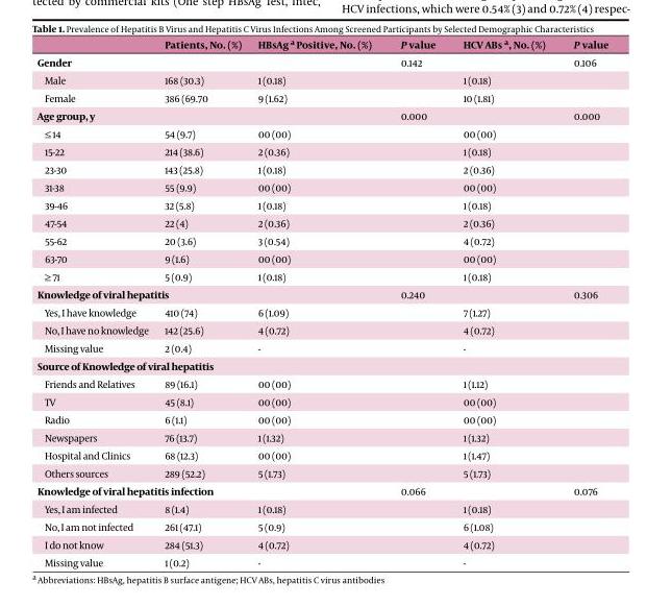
<table><thead><tr><td></td><td>Patients, No. (%)</td><td>HBsAg a Positive, No. (%)</td><td>P value</td><td>HCV ABs a, No. (%)</td><td>P value</td></tr></thead><tbody><tr><td>Gender</td><td></td><td></td><td>0.142</td><td></td><td>0.106</td></tr><tr><td>Male</td><td>168 (30.3)</td><td colspan="2">1 (0.18)</td><td colspan="2">1 (0.18)</td></tr><tr><td>Female</td><td>386 (69.70</td><td colspan="2">9 (1.62)</td><td colspan="2">10 (1.81)</td></tr><tr><td>Age group, y</td><td></td><td></td><td>0.000</td><td></td><td>0.000</td></tr><tr><td>≤ 14</td><td>54 (9.7)</td><td colspan="2">00 (00)</td><td colspan="2">00 (00)</td></tr><tr><td>15-22</td><td>214 (38.6)</td><td colspan="2">2 (0.36)</td><td colspan="2">1 (0.18)</td></tr><tr><td>23-30</td><td>143 (25.8)</td><td colspan="2">1 (0.18)</td><td colspan="2">2 (0.36)</td></tr><tr><td>31-38</td><td>55 (9.9)</td><td colspan="2">00 (00)</td><td colspan="2">00 (00)</td></tr><tr><td>39-46</td><td>32 (5.8)</td><td colspan="2">1 (0.18)</td><td colspan="2">1 (0.18)</td></tr><tr><td>47-54</td><td>22 (4)</td><td colspan="2">2 (0.36)</td><td colspan="2">2 (0.36)</td></tr><tr><td>55-62</td><td>20 (3.6)</td><td colspan="2">3 (0.54)</td><td colspan="2">4 (0.72)</td></tr><tr><td>63-70</td><td>9 (1.6)</td><td colspan="2">00 (00)</td><td colspan="2">00 (00)</td></tr><tr><td>≥ 71</td><td>5 (0.9)</td><td>1 (0.18)</td><td></td><td>1 (0.18)</td><td></td></tr><tr><td colspan="3">Knowledge of viral hepatitis</td><td>0.240</td><td></td><td>0.306</td></tr><tr><td>Yes, I have knowledge</td><td>410 (74)</td><td colspan="2">6 (1.09)</td><td colspan="2">7 (1.27)</td></tr><tr><td>No, I have no knowledge</td><td>142 (25.6)</td><td colspan="2">4 (0.72)</td><td colspan="2">4 (0.72)</td></tr><tr><td>Missing value</td><td>2 (0.4)</td><td colspan="2">-</td><td colspan="2">-</td></tr><tr><td colspan="6">Source of Knowledge of viral hepatitis</td></tr><tr><td>Friends and Relatives</td><td>89 (16.1)</td><td colspan="2">00 (00)</td><td colspan="2">1 (1.12)</td></tr><tr><td>TV</td><td>45 (8.1)</td><td colspan="2">00 (00)</td><td colspan="2">00 (00)</td></tr><tr><td>Radio</td><td>6 (1.1)</td><td colspan="2">00 (00)</td><td colspan="2">00 (00)</td></tr><tr><td>Newspapers</td><td>76 (13.7)</td><td colspan="2">1 (1.32)</td><td colspan="2">1 (1.32)</td></tr><tr><td>Hospital and Clinics</td><td>68 (12.3)</td><td colspan="2">00 (00)</td><td colspan="2">1 (1.47)</td></tr><tr><td>Others sources</td><td>289 (52.2)</td><td colspan="2">5 (1.73)</td><td colspan="2">5 (1.73)</td></tr><tr><td colspan="3">Knowledge of viral hepatitis infection</td><td>0.066</td><td></td><td>0.076</td></tr><tr><td>Yes, I am infected</td><td>8 (1.4)</td><td colspan="2">1 (0.18)</td><td colspan="2">1 (0.18)</td></tr><tr><td>No, I am not infected</td><td>261 (47.1)</td><td colspan="2">5 (0.9)</td><td colspan="2">6 (1.08)</td></tr><tr><td>I do not know</td><td>284 (51.3)</td><td colspan="2">4 (0.72)</td><td colspan="2">4 (0.72)</td></tr><tr><td>Missing value</td><td>1 (0.2)</td><td colspan="2">-</td><td colspan="2">-</td></tr></tbody></table>